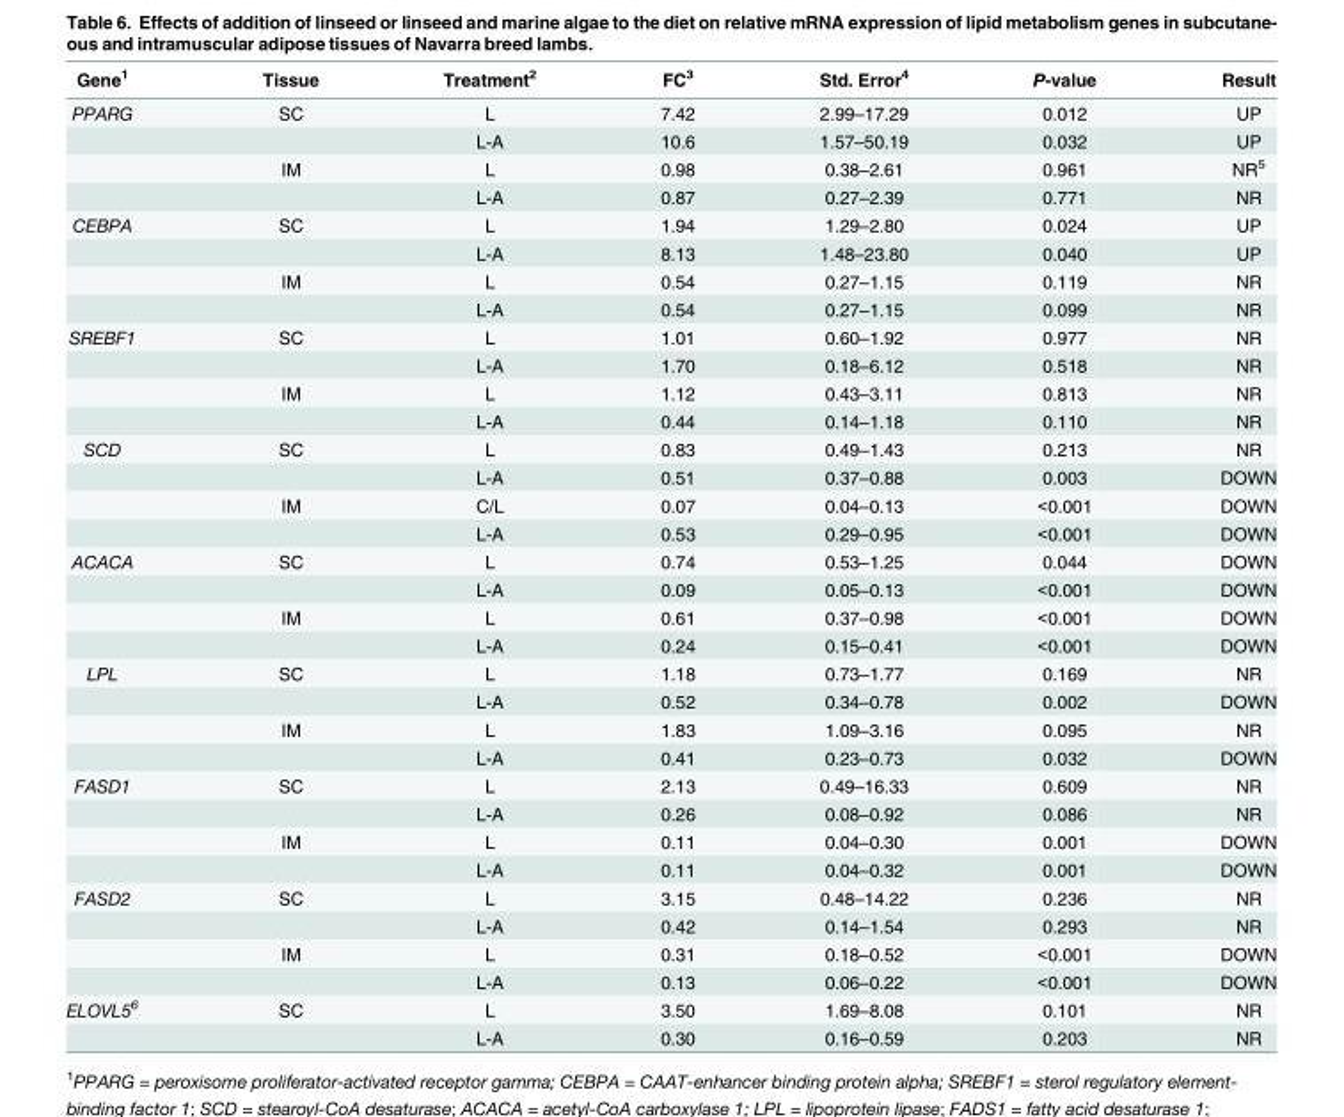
<table><thead><tr><td>Gene<sup>1</sup></td><td>Tissue</td><td>Treatment<sup>2</sup></td><td>FC<sup>3</sup></td><td>Std. Error<sup>4</sup></td><td>P-value</td><td>Result</td></tr></thead><tbody><tr><td rowspan="4">PPARG</td><td>SC</td><td>L</td><td>7.42</td><td>2.99–17.29</td><td>0.012</td><td>UP</td></tr><tr><td></td><td>L-A</td><td>10.6</td><td>1.57–50.19</td><td>0.032</td><td>UP</td></tr><tr><td>IM</td><td>L</td><td>0.98</td><td>0.38–2.61</td><td>0.961</td><td>NR<sup>5</sup></td></tr><tr><td></td><td>L-A</td><td>0.87</td><td>0.27–2.39</td><td>0.771</td><td>NR</td></tr><tr><td rowspan="4">CEBPA</td><td>SC</td><td>L</td><td>1.94</td><td>1.29–2.80</td><td>0.024</td><td>UP</td></tr><tr><td></td><td>L-A</td><td>8.13</td><td>1.48–23.80</td><td>0.040</td><td>UP</td></tr><tr><td>IM</td><td>L</td><td>0.54</td><td>0.27–1.15</td><td>0.119</td><td>NR</td></tr><tr><td></td><td>L-A</td><td>0.54</td><td>0.27–1.15</td><td>0.099</td><td>NR</td></tr><tr><td rowspan="4">SREBF1</td><td>SC</td><td>L</td><td>1.01</td><td>0.60–1.92</td><td>0.977</td><td>NR</td></tr><tr><td></td><td>L-A</td><td>1.70</td><td>0.18–6.12</td><td>0.518</td><td>NR</td></tr><tr><td>IM</td><td>L</td><td>1.12</td><td>0.43–3.11</td><td>0.813</td><td>NR</td></tr><tr><td></td><td>L-A</td><td>0.44</td><td>0.14–1.18</td><td>0.110</td><td>NR</td></tr><tr><td rowspan="4">SCD</td><td>SC</td><td>L</td><td>0.83</td><td>0.49–1.43</td><td>0.213</td><td>NR</td></tr><tr><td></td><td>L-A</td><td>0.51</td><td>0.37–0.88</td><td>0.003</td><td>DOWN</td></tr><tr><td>IM</td><td>C/L</td><td>0.07</td><td>0.04–0.13</td><td>&lt;0.001</td><td>DOWN</td></tr><tr><td></td><td>L-A</td><td>0.53</td><td>0.29–0.95</td><td>&lt;0.001</td><td>DOWN</td></tr><tr><td rowspan="4">ACACA</td><td>SC</td><td>L</td><td>0.74</td><td>0.53–1.25</td><td>0.044</td><td>DOWN</td></tr><tr><td></td><td>L-A</td><td>0.09</td><td>0.05–0.13</td><td>&lt;0.001</td><td>DOWN</td></tr><tr><td>IM</td><td>L</td><td>0.61</td><td>0.37–0.98</td><td>&lt;0.001</td><td>DOWN</td></tr><tr><td></td><td>L-A</td><td>0.24</td><td>0.15–0.41</td><td>&lt;0.001</td><td>DOWN</td></tr><tr><td rowspan="4">LPL</td><td>SC</td><td>L</td><td>1.18</td><td>0.73–1.77</td><td>0.169</td><td>NR</td></tr><tr><td></td><td>L-A</td><td>0.52</td><td>0.34–0.78</td><td>0.002</td><td>DOWN</td></tr><tr><td>IM</td><td>L</td><td>1.83</td><td>1.09–3.16</td><td>0.095</td><td>NR</td></tr><tr><td></td><td>L-A</td><td>0.41</td><td>0.23–0.73</td><td>0.032</td><td>DOWN</td></tr><tr><td rowspan="4">FASD1</td><td>SC</td><td>L</td><td>2.13</td><td>0.49–16.33</td><td>0.609</td><td>NR</td></tr><tr><td></td><td>L-A</td><td>0.26</td><td>0.08–0.92</td><td>0.086</td><td>NR</td></tr><tr><td>IM</td><td>L</td><td>0.11</td><td>0.04–0.30</td><td>0.001</td><td>DOWN</td></tr><tr><td></td><td>L-A</td><td>0.11</td><td>0.04–0.32</td><td>0.001</td><td>DOWN</td></tr><tr><td rowspan="4">FASD2</td><td>SC</td><td>L</td><td>3.15</td><td>0.48–14.22</td><td>0.236</td><td>NR</td></tr><tr><td></td><td>L-A</td><td>0.42</td><td>0.14–1.54</td><td>0.293</td><td>NR</td></tr><tr><td>IM</td><td>L</td><td>0.31</td><td>0.18–0.52</td><td>&lt;0.001</td><td>DOWN</td></tr><tr><td></td><td>L-A</td><td>0.13</td><td>0.06–0.22</td><td>&lt;0.001</td><td>DOWN</td></tr><tr><td rowspan="2">ELOVL5<sup>6</sup></td><td>SC</td><td>L</td><td>3.50</td><td>1.69–8.08</td><td>0.101</td><td>NR</td></tr><tr><td></td><td>L-A</td><td>0.30</td><td>0.16–0.59</td><td>0.203</td><td>NR</td></tr></tbody></table>